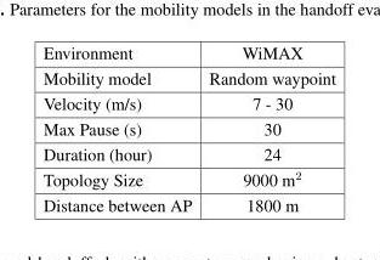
<table><thead><tr><td>Environment</td><td>WiMAX</td></tr></thead><tbody><tr><td>Mobility model</td><td>Random waypoint</td></tr><tr><td>Velocity (m/s)</td><td>7 - 30</td></tr><tr><td>Max Pause (s)</td><td>30</td></tr><tr><td>Duration (hour)</td><td>24</td></tr><tr><td>Topology Size</td><td>9000 m<sup>2</sup></td></tr><tr><td>Distance between AP</td><td>1800 m</td></tr></tbody></table>